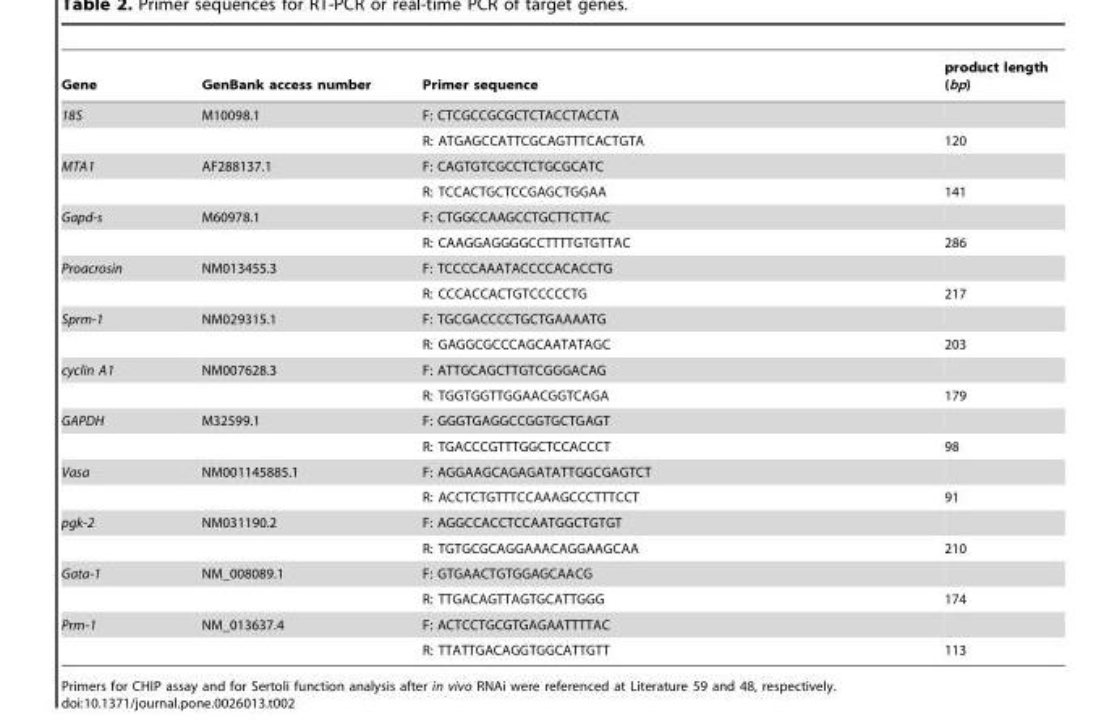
<table><thead><tr><td>Gene</td><td>GenBank access number</td><td>Primer sequence</td><td>product length (bp)</td></tr></thead><tbody><tr><td rowspan="2">18S</td><td>M10098.1</td><td>F: CTCGCCGCGCTCTACCTACCTA</td><td></td></tr><tr><td></td><td>R: ATGAGCCATTCGCAGTTTCACTGTA</td><td>120</td></tr><tr><td rowspan="2">MTA1</td><td>AF288137.1</td><td>F: CAGTGTCGCCTCTGCGCATC</td><td></td></tr><tr><td></td><td>R: TCCACTGCTCCGAGCTGGAA</td><td>141</td></tr><tr><td rowspan="2">Gapd-s</td><td>M60978.1</td><td>F: CTGGCCAAGCCTGCTTCTTAC</td><td></td></tr><tr><td></td><td>R: CAAGGAGGGGCCTTTTGTGTTAC</td><td>286</td></tr><tr><td rowspan="2">Proacrosin</td><td>NM013455.3</td><td>F: TCCCCAAATACCCCACACCTG</td><td></td></tr><tr><td></td><td>R: CCCACCACTGTCCCCCTG</td><td>217</td></tr><tr><td rowspan="2">Sprm-1</td><td>NM029315.1</td><td>F: TGCGACCCCTGCTGAAAATG</td><td></td></tr><tr><td></td><td>R: GAGGCGCCCAGCAATATAGC</td><td>203</td></tr><tr><td rowspan="2">cyclin A1</td><td>NM007628.3</td><td>F: ATTGCAGCTTGTCGGGACAG</td><td></td></tr><tr><td></td><td>R: TGGTGGTTGGAACGGTCAGA</td><td>179</td></tr><tr><td rowspan="2">GAPDH</td><td>M32599.1</td><td>F: GGGTGAGGCCGGTGCTGAGT</td><td></td></tr><tr><td></td><td>R: TGACCCGTTTGGCTCCACCCT</td><td>98</td></tr><tr><td rowspan="2">Vasa</td><td>NM001145885.1</td><td>F: AGGAAGCAGAGATATTGGCGAGTCT</td><td></td></tr><tr><td></td><td>R: ACCTCTGTTTCCAAAGCCCTTTCCT</td><td>91</td></tr><tr><td rowspan="2">pgk-2</td><td>NM031190.2</td><td>F: AGGCCACCTCCAATGGCTGTGT</td><td></td></tr><tr><td></td><td>R: TGTGCGCAGGAAACAGGAAGCAA</td><td>210</td></tr><tr><td rowspan="2">Gata-1</td><td>NM_008089.1</td><td>F: GTGAACTGTGGAGCAACG</td><td></td></tr><tr><td></td><td>R: TTGACAGTTAGTGCATTGGG</td><td>174</td></tr><tr><td rowspan="2">Prm-1</td><td>NM_013637.4</td><td>F: ACTCCTGCGTGAGAATTTTAC</td><td></td></tr><tr><td></td><td>R: TTATTGACAGGTGGCATTGTT</td><td>113</td></tr></tbody></table>